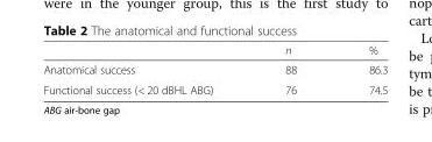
<table><thead><tr><td></td><td>n</td><td>%</td></tr></thead><tbody><tr><td>Anatomical success</td><td>88</td><td>86.3</td></tr><tr><td>Functional success (&lt; 20 dBHL ABG)</td><td>76</td><td>74.5</td></tr></tbody></table>